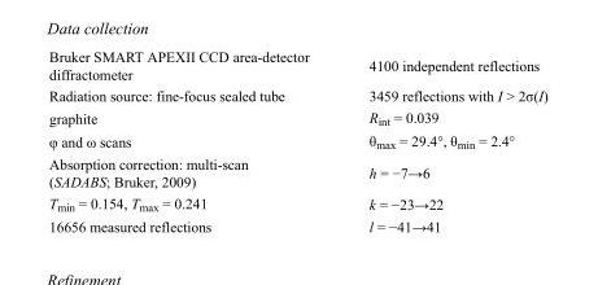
<table><tbody><tr><td>Bruker SMART APEXII CCD area-detector diffractometer</td><td>4100 independent reflections</td></tr><tr><td>Radiation source: fine-focus sealed tube</td><td>3459 reflections with I &gt; 2σ(I)</td></tr><tr><td>graphite</td><td>R<sub>int</sub> = 0.039</td></tr><tr><td>φ and ω scans</td><td>θ<sub>max</sub> = 29.4°, θ<sub>min</sub> = 2.4°</td></tr><tr><td>Absorption correction: multi-scan (SADABS; Bruker, 2009)</td><td>h = −7→6</td></tr><tr><td>T<sub>min</sub> = 0.154, T<sub>max</sub> = 0.241</td><td>k = −23→22</td></tr><tr><td>16656 measured reflections</td><td>l = −41→41</td></tr></tbody></table>